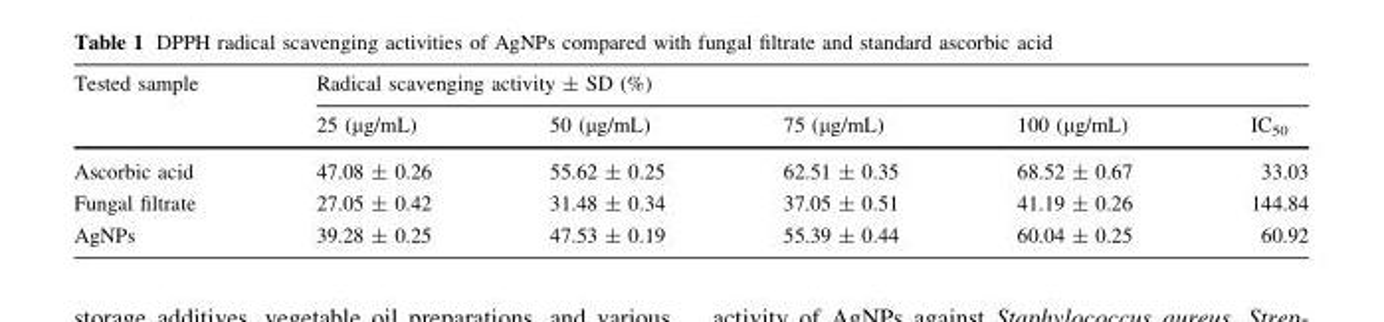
<table><thead><tr><td rowspan="2">Tested sample</td><td colspan="5">Radical scavenging activity ± SD (%)</td></tr><tr><td>25 (µg/mL)</td><td>50 (µg/mL)</td><td>75 (µg/mL)</td><td>100 (µg/mL)</td><td>IC<sub>50</sub></td></tr></thead><tbody><tr><td>Ascorbic acid</td><td>47.08 ± 0.26</td><td>55.62 ± 0.25</td><td>62.51 ± 0.35</td><td>68.52 ± 0.67</td><td>33.03</td></tr><tr><td>Fungal filtrate</td><td>27.05 ± 0.42</td><td>31.48 ± 0.34</td><td>37.05 ± 0.51</td><td>41.19 ± 0.26</td><td>144.84</td></tr><tr><td>AgNPs</td><td>39.28 ± 0.25</td><td>47.53 ± 0.19</td><td>55.39 ± 0.44</td><td>60.04 ± 0.25</td><td>60.92</td></tr></tbody></table>